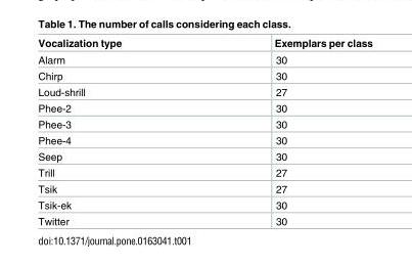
<table><thead><tr><td>Vocalization type</td><td>Exemplars per class</td></tr></thead><tbody><tr><td>Alarm</td><td>30</td></tr><tr><td>Chirp</td><td>30</td></tr><tr><td>Loud-shrill</td><td>27</td></tr><tr><td>Phee-2</td><td>30</td></tr><tr><td>Phee-3</td><td>30</td></tr><tr><td>Phee-4</td><td>30</td></tr><tr><td>Seep</td><td>30</td></tr><tr><td>Trill</td><td>27</td></tr><tr><td>Tsik</td><td>27</td></tr><tr><td>Tsik-ek</td><td>30</td></tr><tr><td>Twitter</td><td>30</td></tr></tbody></table>